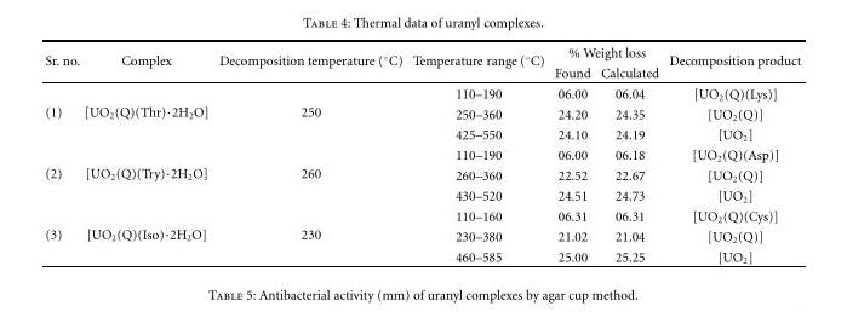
<table><thead><tr><td rowspan="2">Sr. no.</td><td rowspan="2">Complex</td><td rowspan="2">Decomposition temperature (◦C)</td><td rowspan="2">Temperature range (◦C)</td><td colspan="2">% Weight loss</td><td rowspan="2">Decomposition product</td></tr><tr><td>Found</td><td>Calculated</td></tr></thead><tbody><tr><td rowspan="3">(1)</td><td rowspan="3">[UO<sub>2</sub>(Q)(Thr)·2H<sub>2</sub>O]</td><td rowspan="3">250</td><td>110–190</td><td>06.00</td><td>06.04</td><td>[UO<sub>2</sub>(Q)(Lys)]</td></tr><tr><td>250–360</td><td>24.20</td><td>24.35</td><td>[UO<sub>2</sub>(Q)]</td></tr><tr><td>425–550</td><td>24.10</td><td>24.19</td><td>[UO<sub>2</sub>]</td></tr><tr><td rowspan="3">(2)</td><td rowspan="3">[UO<sub>2</sub>(Q)(Try)·2H<sub>2</sub>O]</td><td rowspan="3">260</td><td>110–190</td><td>06.00</td><td>06.18</td><td>[UO<sub>2</sub>(Q)(Asp)]</td></tr><tr><td>260–360</td><td>22.52</td><td>22.67</td><td>[UO<sub>2</sub>(Q)]</td></tr><tr><td>430–520</td><td>24.51</td><td>24.73</td><td>[UO<sub>2</sub>]</td></tr><tr><td rowspan="3">(3)</td><td rowspan="3">[UO<sub>2</sub>(Q)(Iso)·2H<sub>2</sub>O]</td><td rowspan="3">230</td><td>110–160</td><td>06.31</td><td>06.31</td><td>[UO<sub>2</sub>(Q)(Cys)]</td></tr><tr><td>230–380</td><td>21.02</td><td>21.04</td><td>[UO<sub>2</sub>(Q)]</td></tr><tr><td>460–585</td><td>25.00</td><td>25.25</td><td>[UO<sub>2</sub>]</td></tr></tbody></table>